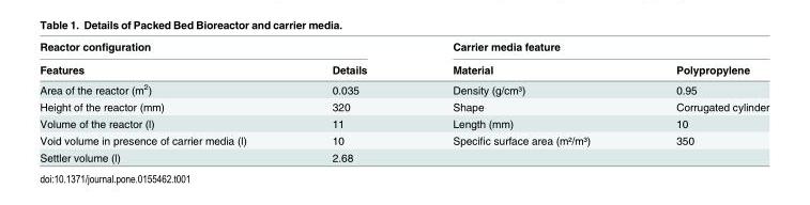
<table><thead><tr><td colspan="2">Reactor configuration</td><td colspan="2">Carrier media feature</td></tr><tr><td>Features</td><td>Details</td><td>Material</td><td>Polypropylene</td></tr></thead><tbody><tr><td>Area of the reactor (m<sup>2</sup>)</td><td>0.035</td><td>Density (g/cm³)</td><td>0.95</td></tr><tr><td>Height of the reactor (mm)</td><td>320</td><td>Shape</td><td>Corrugated cylinder</td></tr><tr><td>Volume of the reactor (l)</td><td>11</td><td>Length (mm)</td><td>10</td></tr><tr><td>Void volume in presence of carrier media (l)</td><td>10</td><td>Specific surface area (m²/m³)</td><td>350</td></tr><tr><td>Settler volume (l)</td><td>2.68</td><td></td><td></td></tr></tbody></table>